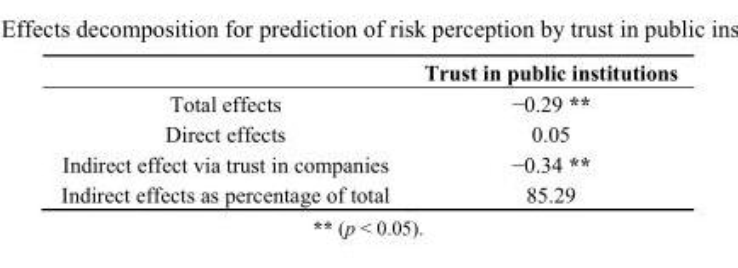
<table><thead><tr><td></td><td>Trust in public institutions</td></tr></thead><tbody><tr><td>Total effects</td><td>−0.29 **</td></tr><tr><td>Direct effects</td><td>0.05</td></tr><tr><td>Indirect effect via trust in companies</td><td>−0.34 **</td></tr><tr><td>Indirect effects as percentage of total</td><td>85.29</td></tr></tbody></table>